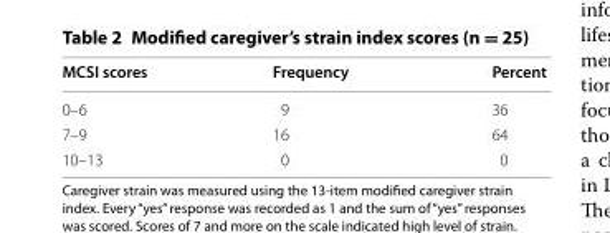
<table><thead><tr><td>MCSI scores</td><td>Frequency</td><td>Percent</td></tr></thead><tbody><tr><td>0–6</td><td>9</td><td>36</td></tr><tr><td>7–9</td><td>16</td><td>64</td></tr><tr><td>10–13</td><td>0</td><td>0</td></tr></tbody></table>